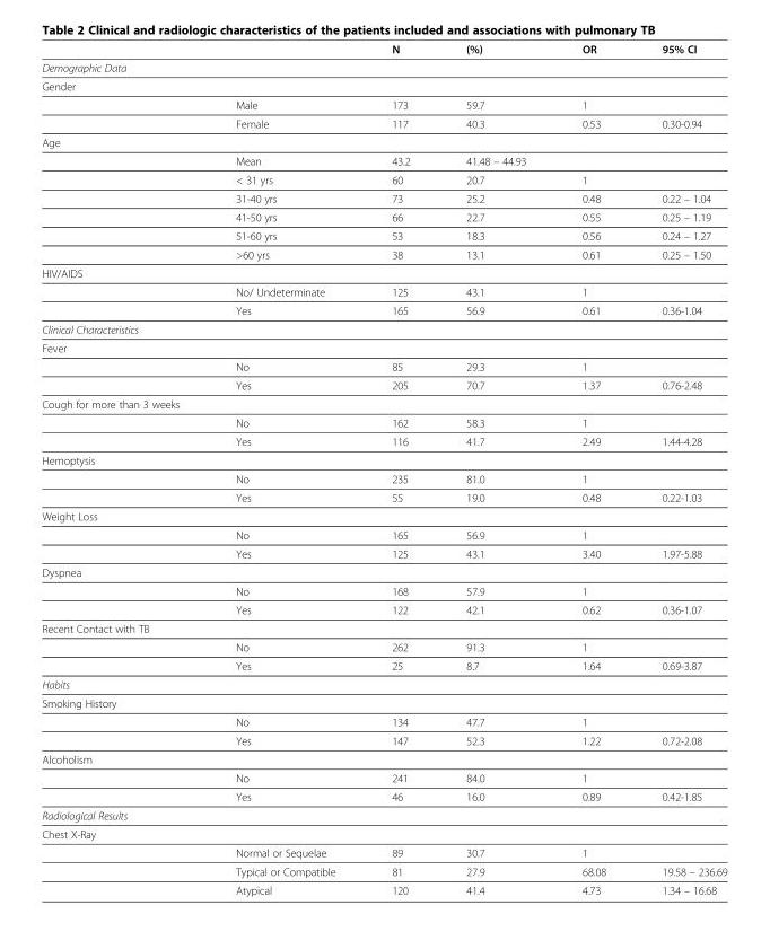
<table><thead><tr><td></td><td></td><td>N</td><td>(%)</td><td>OR</td><td>95% CI</td></tr></thead><tbody><tr><td colspan="6">Demographic Data</td></tr><tr><td colspan="6">Gender</td></tr><tr><td></td><td>Male</td><td>173</td><td>59.7</td><td>1</td><td></td></tr><tr><td></td><td>Female</td><td>117</td><td>40.3</td><td>0.53</td><td>0.30-0.94</td></tr><tr><td colspan="6">Age</td></tr><tr><td></td><td>Mean</td><td>43.2</td><td>41.48 – 44.93</td><td></td><td></td></tr><tr><td></td><td>&lt; 31 yrs</td><td>60</td><td>20.7</td><td>1</td><td></td></tr><tr><td></td><td>31-40 yrs</td><td>73</td><td>25.2</td><td>0.48</td><td>0.22 – 1.04</td></tr><tr><td></td><td>41-50 yrs</td><td>66</td><td>22.7</td><td>0.55</td><td>0.25 – 1.19</td></tr><tr><td></td><td>51-60 yrs</td><td>53</td><td>18.3</td><td>0.56</td><td>0.24 – 1.27</td></tr><tr><td></td><td>&gt;60 yrs</td><td>38</td><td>13.1</td><td>0.61</td><td>0.25 – 1.50</td></tr><tr><td colspan="6">HIV/AIDS</td></tr><tr><td></td><td>No/ Undeterminate</td><td>125</td><td>43.1</td><td>1</td><td></td></tr><tr><td></td><td>Yes</td><td>165</td><td>56.9</td><td>0.61</td><td>0.36-1.04</td></tr><tr><td colspan="6">Clinical Characteristics</td></tr><tr><td colspan="6">Fever</td></tr><tr><td></td><td>No</td><td>85</td><td>29.3</td><td>1</td><td></td></tr><tr><td></td><td>Yes</td><td>205</td><td>70.7</td><td>1.37</td><td>0.76-2.48</td></tr><tr><td colspan="6">Cough for more than 3 weeks</td></tr><tr><td></td><td>No</td><td>162</td><td>58.3</td><td>1</td><td></td></tr><tr><td></td><td>Yes</td><td>116</td><td>41.7</td><td>2.49</td><td>1.44-4.28</td></tr><tr><td colspan="6">Hemoptysis</td></tr><tr><td></td><td>No</td><td>235</td><td>81.0</td><td>1</td><td></td></tr><tr><td></td><td>Yes</td><td>55</td><td>19.0</td><td>0.48</td><td>0.22-1.03</td></tr><tr><td colspan="6">Weight Loss</td></tr><tr><td></td><td>No</td><td>165</td><td>56.9</td><td>1</td><td></td></tr><tr><td></td><td>Yes</td><td>125</td><td>43.1</td><td>3.40</td><td>1.97-5.88</td></tr><tr><td colspan="6">Dyspnea</td></tr><tr><td></td><td>No</td><td>168</td><td>57.9</td><td>1</td><td></td></tr><tr><td></td><td>Yes</td><td>122</td><td>42.1</td><td>0.62</td><td>0.36-1.07</td></tr><tr><td colspan="6">Recent Contact with TB</td></tr><tr><td></td><td>No</td><td>262</td><td>91.3</td><td>1</td><td></td></tr><tr><td></td><td>Yes</td><td>25</td><td>8.7</td><td>1.64</td><td>0.69-3.87</td></tr><tr><td colspan="6">Habits</td></tr><tr><td colspan="6">Smoking History</td></tr><tr><td></td><td>No</td><td>134</td><td>47.7</td><td>1</td><td></td></tr><tr><td></td><td>Yes</td><td>147</td><td>52.3</td><td>1.22</td><td>0.72-2.08</td></tr><tr><td colspan="6">Alcoholism</td></tr><tr><td></td><td>No</td><td>241</td><td>84.0</td><td>1</td><td></td></tr><tr><td></td><td>Yes</td><td>46</td><td>16.0</td><td>0.89</td><td>0.42-1.85</td></tr><tr><td colspan="6">Radiological Results</td></tr><tr><td colspan="6">Chest X-Ray</td></tr><tr><td></td><td>Normal or Sequelae</td><td>89</td><td>30.7</td><td>1</td><td></td></tr><tr><td></td><td>Typical or Compatible</td><td>81</td><td>27.9</td><td>68.08</td><td>19.58 – 236.69</td></tr><tr><td></td><td>Atypical</td><td>120</td><td>41.4</td><td>4.73</td><td>1.34 – 16.68</td></tr></tbody></table>